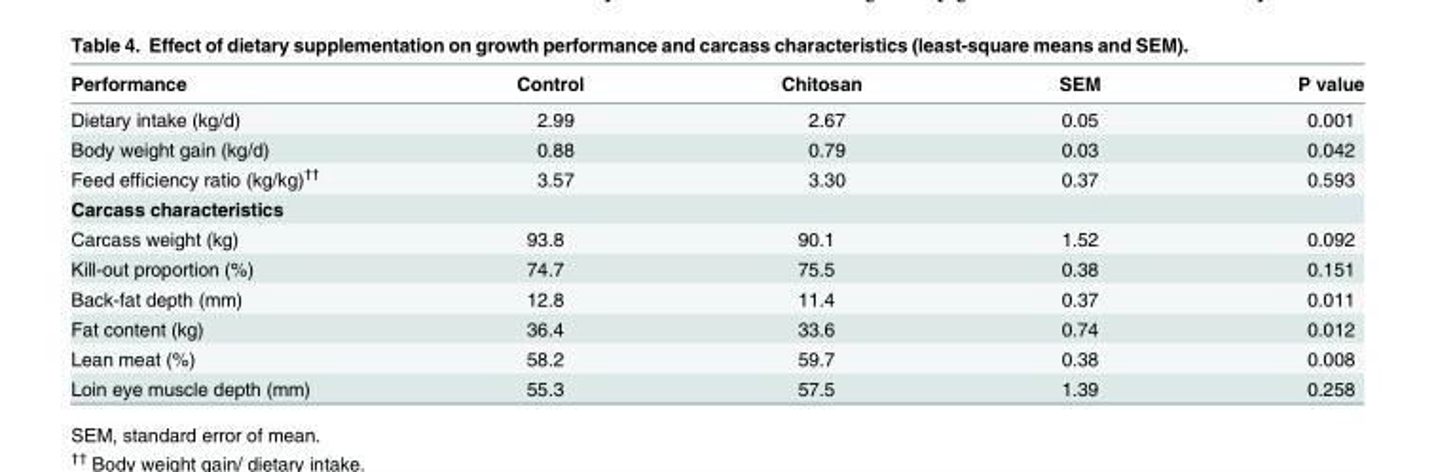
<table><thead><tr><td>Performance</td><td>Control</td><td>Chitosan</td><td>SEM</td><td>P value</td></tr></thead><tbody><tr><td>Dietary intake (kg/d)</td><td>2.99</td><td>2.67</td><td>0.05</td><td>0.001</td></tr><tr><td>Body weight gain (kg/d)</td><td>0.88</td><td>0.79</td><td>0.03</td><td>0.042</td></tr><tr><td>Feed efficiency ratio (kg/kg)<sup>††</sup></td><td>3.57</td><td>3.30</td><td>0.37</td><td>0.593</td></tr><tr><td colspan="5">Carcass characteristics</td></tr><tr><td>Carcass weight (kg)</td><td>93.8</td><td>90.1</td><td>1.52</td><td>0.092</td></tr><tr><td>Kill-out proportion (%)</td><td>74.7</td><td>75.5</td><td>0.38</td><td>0.151</td></tr><tr><td>Back-fat depth (mm)</td><td>12.8</td><td>11.4</td><td>0.37</td><td>0.011</td></tr><tr><td>Fat content (kg)</td><td>36.4</td><td>33.6</td><td>0.74</td><td>0.012</td></tr><tr><td>Lean meat (%)</td><td>58.2</td><td>59.7</td><td>0.38</td><td>0.008</td></tr><tr><td>Loin eye muscle depth (mm)</td><td>55.3</td><td>57.5</td><td>1.39</td><td>0.258</td></tr></tbody></table>